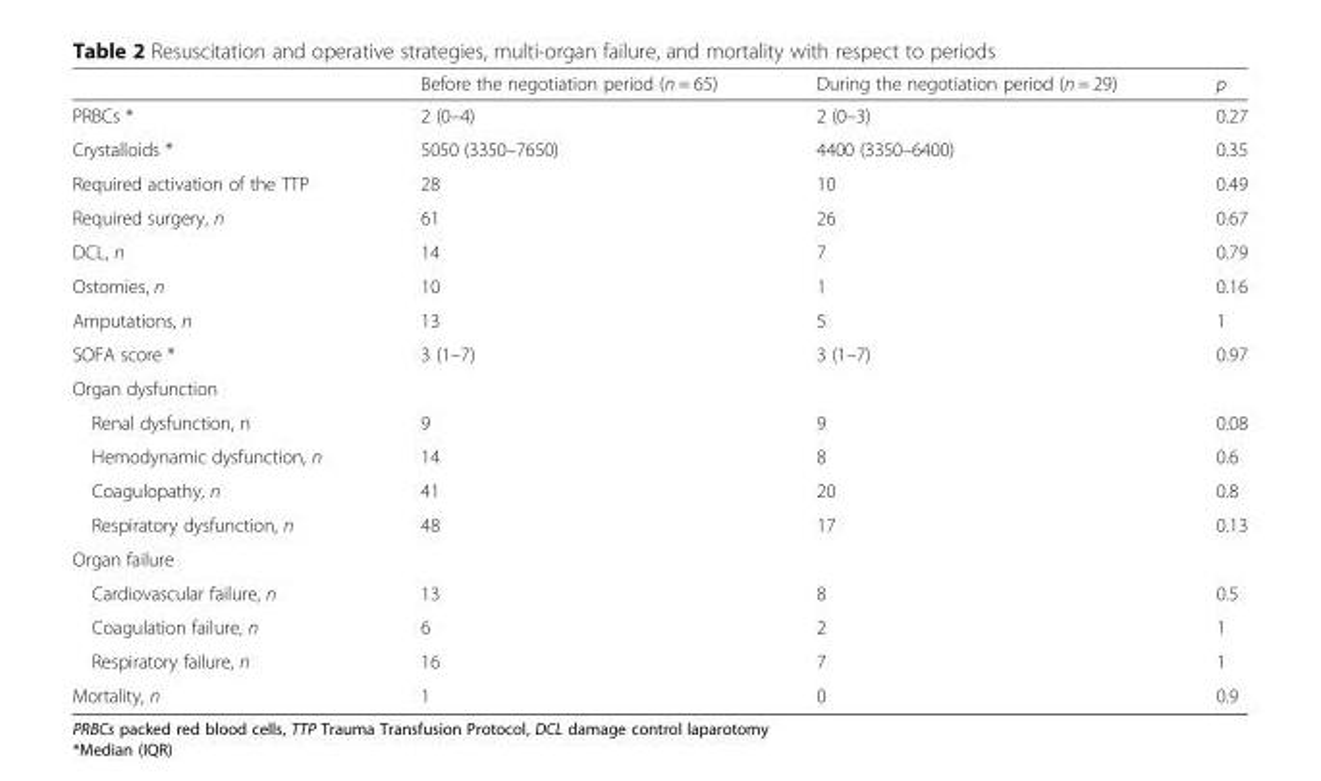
<table><thead><tr><td></td><td>Before the negotiation period (n = 65)</td><td>During the negotiation period (n = 29)</td><td>p</td></tr></thead><tbody><tr><td>PRBCs *</td><td>2 (0–4)</td><td>2 (0–3)</td><td>0.27</td></tr><tr><td>Crystalloids *</td><td>5050 (3350–7650)</td><td>4400 (3350–6400)</td><td>0.35</td></tr><tr><td>Required activation of the TTP</td><td>28</td><td>10</td><td>0.49</td></tr><tr><td>Required surgery, n</td><td>61</td><td>26</td><td>0.67</td></tr><tr><td>DCL, n</td><td>14</td><td>7</td><td>0.79</td></tr><tr><td>Ostomies, n</td><td>10</td><td>1</td><td>0.16</td></tr><tr><td>Amputations, n</td><td>13</td><td>5</td><td>1</td></tr><tr><td>SOFA score *</td><td>3 (1–7)</td><td>3 (1–7)</td><td>0.97</td></tr><tr><td colspan="4">Organ dysfunction</td></tr><tr><td>Renal dysfunction, n</td><td>9</td><td>9</td><td>0.08</td></tr><tr><td>Hemodynamic dysfunction, n</td><td>14</td><td>8</td><td>0.6</td></tr><tr><td>Coagulopathy, n</td><td>41</td><td>20</td><td>0.8</td></tr><tr><td>Respiratory dysfunction, n</td><td>48</td><td>17</td><td>0.13</td></tr><tr><td colspan="4">Organ failure</td></tr><tr><td>Cardiovascular failure, n</td><td>13</td><td>8</td><td>0.5</td></tr><tr><td>Coagulation failure, n</td><td>6</td><td>2</td><td>1</td></tr><tr><td>Respiratory failure, n</td><td>16</td><td>7</td><td>1</td></tr><tr><td>Mortality, n</td><td>1</td><td>0</td><td>0.9</td></tr></tbody></table>